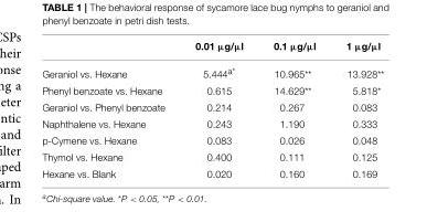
<table><thead><tr><td></td><td>0.01 µg/µl</td><td>0.1 µg/µl</td><td>1 µg/µl</td></tr></thead><tbody><tr><td>Geraniol vs. Hexane</td><td>5.444<sup>a*</sup></td><td>10.965**</td><td>13.928**</td></tr><tr><td>Phenyl benzoate vs. Hexane</td><td>0.615</td><td>14.629**</td><td>5.818*</td></tr><tr><td>Geraniol vs. Phenyl benzoate</td><td>0.214</td><td>0.267</td><td>0.083</td></tr><tr><td>Naphthalene vs. Hexane</td><td>0.243</td><td>1.190</td><td>0.333</td></tr><tr><td>p-Cymene vs. Hexane</td><td>0.083</td><td>0.026</td><td>0.048</td></tr><tr><td>Thymol vs. Hexane</td><td>0.400</td><td>0.111</td><td>0.125</td></tr><tr><td>Hexane vs. Blank</td><td>0.020</td><td>0.160</td><td>0.169</td></tr></tbody></table>